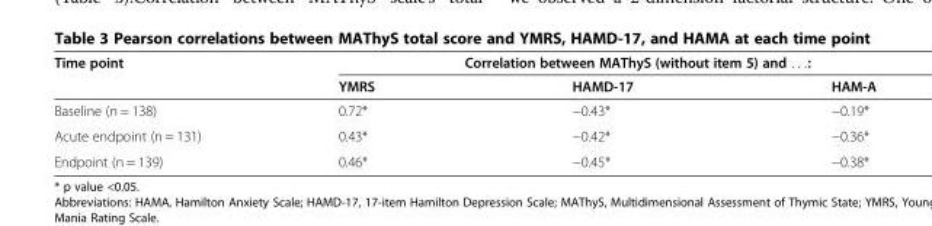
<table><thead><tr><td rowspan="2">Time point</td><td colspan="3">Correlation between MAThyS (without item 5) and . . .:</td></tr><tr><td>YMRS</td><td>HAMD-17</td><td>HAM-A</td></tr></thead><tbody><tr><td>Baseline (n = 138)</td><td>0.72*</td><td>−0.43*</td><td>−0.19*</td></tr><tr><td>Acute endpoint (n = 131)</td><td>0.43*</td><td>−0.42*</td><td>−0.36*</td></tr><tr><td>Endpoint (n = 139)</td><td>0.46*</td><td>−0.45*</td><td>−0.38*</td></tr></tbody></table>